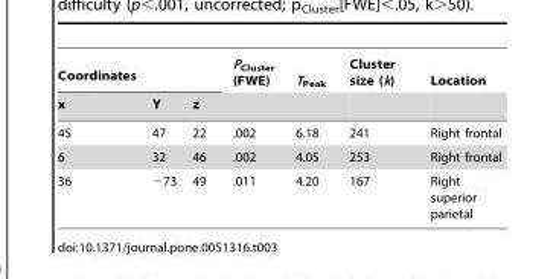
<table><thead><tr><td colspan="3">Coordinates</td><td rowspan="2">P<sub>Cluster</sub> (FWE)</td><td rowspan="2">T<sub>Peak</sub></td><td rowspan="2">Cluster size (k)</td><td rowspan="2">Location</td></tr><tr><td>x</td><td>Y</td><td>z</td></tr></thead><tbody><tr><td>45</td><td>47</td><td>22</td><td>.002</td><td>6.18</td><td>241</td><td>Right frontal</td></tr><tr><td>6</td><td>32</td><td>46</td><td>.002</td><td>4.05</td><td>253</td><td>Right frontal</td></tr><tr><td>36</td><td>−73</td><td>49</td><td>.011</td><td>4.20</td><td>167</td><td>Right superior parietal</td></tr></tbody></table>